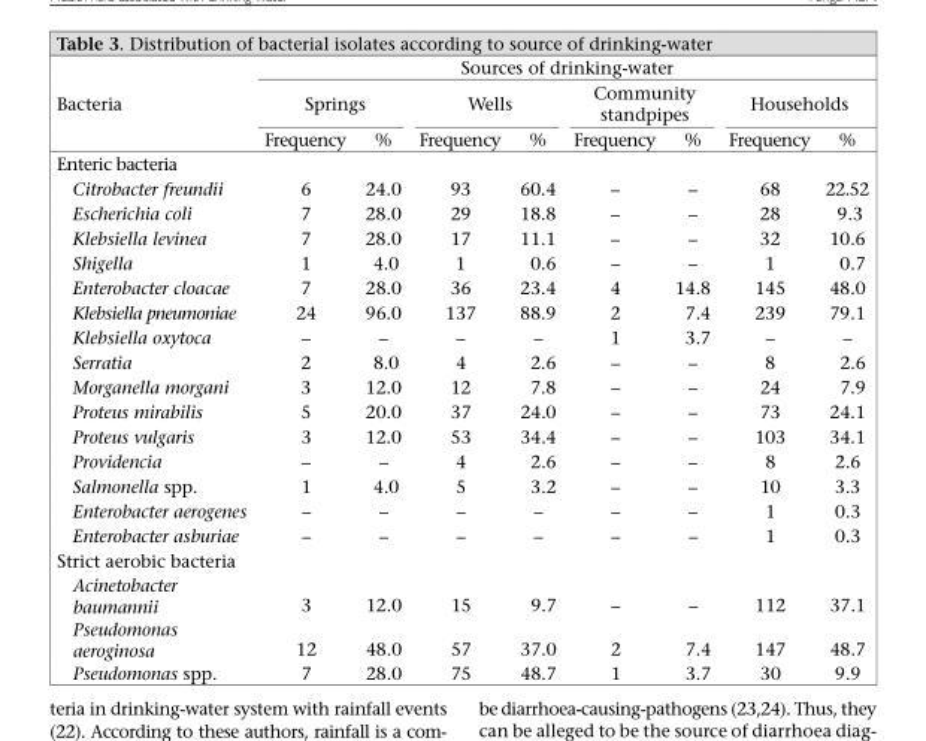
<table><thead><tr><td rowspan="3">Bacteria</td><td colspan="8">Sources of drinking-water</td></tr><tr><td colspan="2">Springs</td><td colspan="2">Wells</td><td colspan="2">Community standpipes</td><td colspan="2">Households</td></tr><tr><td>Frequency</td><td>%</td><td>Frequency</td><td>%</td><td>Frequency</td><td>%</td><td>Frequency</td><td>%</td></tr></thead><tbody><tr><td colspan="9">Enteric bacteria</td></tr><tr><td>Citrobacter freundii</td><td>6</td><td>24.0</td><td>93</td><td>60.4</td><td>–</td><td>–</td><td>68</td><td>22.52</td></tr><tr><td>Escherichia coli</td><td>7</td><td>28.0</td><td>29</td><td>18.8</td><td>–</td><td>–</td><td>28</td><td>9.3</td></tr><tr><td>Klebsiella levinea</td><td>7</td><td>28.0</td><td>17</td><td>11.1</td><td>–</td><td>–</td><td>32</td><td>10.6</td></tr><tr><td>Shigella</td><td>1</td><td>4.0</td><td>1</td><td>0.6</td><td>–</td><td>–</td><td>1</td><td>0.7</td></tr><tr><td>Enterobacter cloacae</td><td>7</td><td>28.0</td><td>36</td><td>23.4</td><td>4</td><td>14.8</td><td>145</td><td>48.0</td></tr><tr><td>Klebsiella pneumoniae</td><td>24</td><td>96.0</td><td>137</td><td>88.9</td><td>2</td><td>7.4</td><td>239</td><td>79.1</td></tr><tr><td>Klebsiella oxytoca</td><td>–</td><td>–</td><td>–</td><td>–</td><td>1</td><td>3.7</td><td>–</td><td>–</td></tr><tr><td>Serratia</td><td>2</td><td>8.0</td><td>4</td><td>2.6</td><td>–</td><td>–</td><td>8</td><td>2.6</td></tr><tr><td>Morganella morgani</td><td>3</td><td>12.0</td><td>12</td><td>7.8</td><td>–</td><td>–</td><td>24</td><td>7.9</td></tr><tr><td>Proteus mirabilis</td><td>5</td><td>20.0</td><td>37</td><td>24.0</td><td>–</td><td>–</td><td>73</td><td>24.1</td></tr><tr><td>Proteus vulgaris</td><td>3</td><td>12.0</td><td>53</td><td>34.4</td><td>–</td><td>–</td><td>103</td><td>34.1</td></tr><tr><td>Providencia</td><td>–</td><td>–</td><td>4</td><td>2.6</td><td>–</td><td>–</td><td>8</td><td>2.6</td></tr><tr><td>Salmonella spp.</td><td>1</td><td>4.0</td><td>5</td><td>3.2</td><td>–</td><td>–</td><td>10</td><td>3.3</td></tr><tr><td>Enterobacter aerogenes</td><td>–</td><td>–</td><td>–</td><td>–</td><td>–</td><td>–</td><td>1</td><td>0.3</td></tr><tr><td>Enterobacter asburiae</td><td>–</td><td>–</td><td>–</td><td>–</td><td>–</td><td>–</td><td>1</td><td>0.3</td></tr><tr><td colspan="9">Strict aerobic bacteria</td></tr><tr><td>Acinetobacter baumannii</td><td>3</td><td>12.0</td><td>15</td><td>9.7</td><td>–</td><td>–</td><td>112</td><td>37.1</td></tr><tr><td>Pseudomonas aeroginosa</td><td>12</td><td>48.0</td><td>57</td><td>37.0</td><td>2</td><td>7.4</td><td>147</td><td>48.7</td></tr><tr><td>Pseudomonas spp.</td><td>7</td><td>28.0</td><td>75</td><td>48.7</td><td>1</td><td>3.7</td><td>30</td><td>9.9</td></tr></tbody></table>